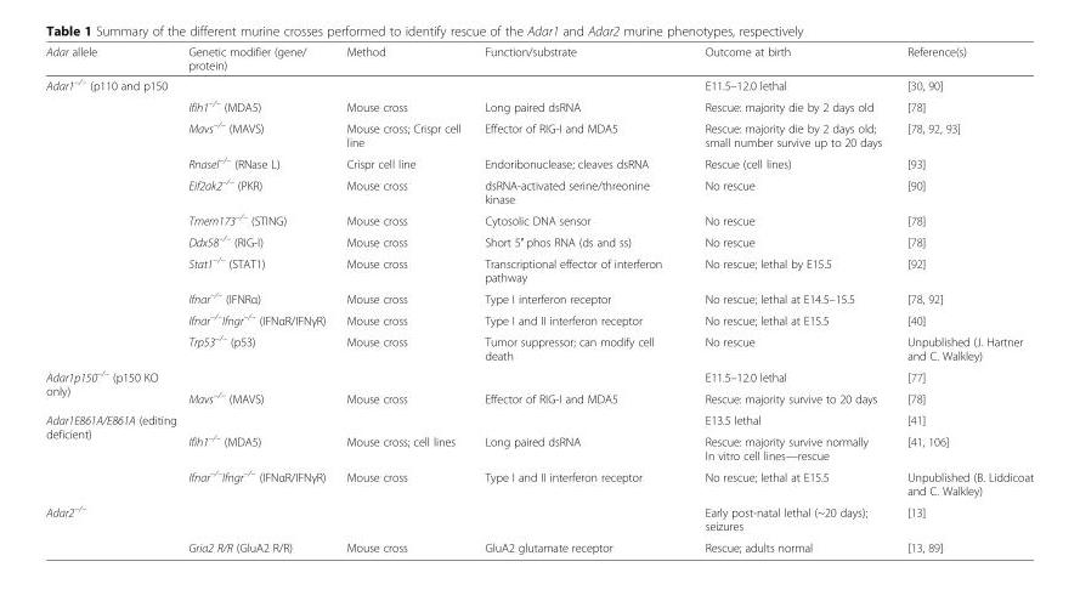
<table><thead><tr><td>Adar allele</td><td>Genetic modifier (gene/ protein)</td><td>Method</td><td>Function/substrate</td><td>Outcome at birth</td><td>Reference(s)</td></tr></thead><tbody><tr><td rowspan="11">Adar1<sup>–/–</sup> (p110 and p150</td><td></td><td></td><td></td><td>E11.5–12.0 lethal</td><td>[30, 90]</td></tr><tr><td>Ifih1<sup>–/–</sup> (MDA5)</td><td>Mouse cross</td><td>Long paired dsRNA</td><td>Rescue: majority die by 2 days old</td><td>[78]</td></tr><tr><td>Mavs<sup>–/–</sup> (MAVS)</td><td>Mouse cross; Crispr cell line</td><td>Effector of RIG-I and MDA5</td><td>Rescue: majority die by 2 days old; small number survive up to 20 days</td><td>[78, 92, 93]</td></tr><tr><td>Rnasel<sup>–/–</sup> (RNase L)</td><td>Crispr cell line</td><td>Endoribonuclease; cleaves dsRNA</td><td>Rescue (cell lines)</td><td>[93]</td></tr><tr><td>Eif2ak2<sup>–/–</sup> (PKR)</td><td>Mouse cross</td><td>dsRNA-activated serine/threonine kinase</td><td>No rescue</td><td>[90]</td></tr><tr><td>Tmem173<sup>–/–</sup> (STING)</td><td>Mouse cross</td><td>Cytosolic DNA sensor</td><td>No rescue</td><td>[78]</td></tr><tr><td>Ddx58<sup>–/–</sup> (RIG-I)</td><td>Mouse cross</td><td>Short 5′ phos RNA (ds and ss)</td><td>No rescue</td><td>[78]</td></tr><tr><td>Stat1<sup>–/–</sup> (STAT1)</td><td>Mouse cross</td><td>Transcriptional effector of interferon pathway</td><td>No rescue; lethal by E15.5</td><td>[92]</td></tr><tr><td>Ifnar<sup>–/–</sup> (IFNRα)</td><td>Mouse cross</td><td>Type I interferon receptor</td><td>No rescue; lethal at E14.5–15.5</td><td>[78, 92]</td></tr><tr><td>Ifnar<sup>–/–</sup>Ifngr<sup>–/–</sup> (IFNαR/IFNγR)</td><td>Mouse cross</td><td>Type I and II interferon receptor</td><td>No rescue; lethal at E15.5</td><td>[40]</td></tr><tr><td>Trp53<sup>–/–</sup> (p53)</td><td>Mouse cross</td><td>Tumor suppressor; can modify cell death</td><td>No rescue</td><td>Unpublished (J. Hartner and C. Walkley)</td></tr><tr><td rowspan="2">Adar1p150<sup>–/–</sup> (p150 KO only)</td><td></td><td></td><td></td><td>E11.5–12.0 lethal</td><td>[77]</td></tr><tr><td>Mavs<sup>–/–</sup> (MAVS)</td><td>Mouse cross</td><td>Effector of RIG-I and MDA5</td><td>Rescue: majority survive to 20 days</td><td>[78]</td></tr><tr><td rowspan="3">Adar1E861A/E861A (editing deficient)</td><td></td><td></td><td></td><td>E13.5 lethal</td><td>[41]</td></tr><tr><td>Ifih1<sup>–/–</sup> (MDA5)</td><td>Mouse cross; cell lines</td><td>Long paired dsRNA</td><td>Rescue: majority survive normally In vitro cell lines—rescue</td><td>[41, 106]</td></tr><tr><td>Ifnar<sup>–/–</sup>Ifngr<sup>–/–</sup> (IFNαR/IFNγR)</td><td>Mouse cross</td><td>Type I and II interferon receptor</td><td>No rescue; lethal at E15.5</td><td>Unpublished (B. Liddicoat and C. Walkley)</td></tr><tr><td rowspan="2">Adar2<sup>–/–</sup></td><td></td><td></td><td></td><td>Early post-natal lethal (~20 days); seizures</td><td>[13]</td></tr><tr><td>Gria2 R/R (GluA2 R/R)</td><td>Mouse cross</td><td>GluA2 glutamate receptor</td><td>Rescue; adults normal</td><td>[13, 89]</td></tr></tbody></table>